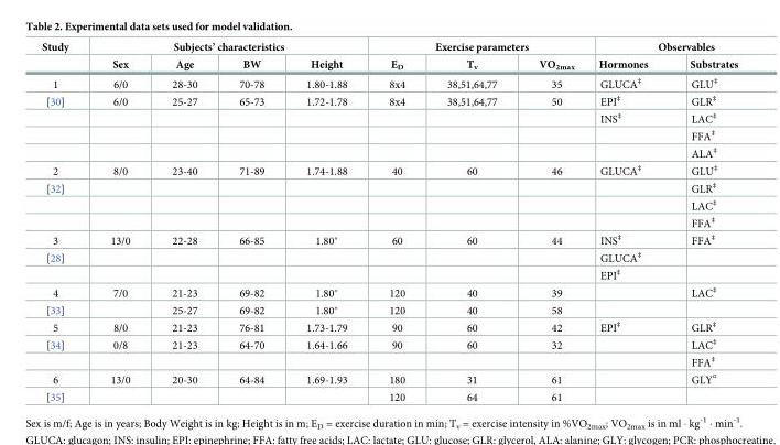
<table><thead><tr><td rowspan="2">Study</td><td colspan="4">Subjects’ characteristics</td><td colspan="3">Exercise parameters</td><td colspan="2">Observables</td></tr><tr><td>Sex</td><td>Age</td><td>BW</td><td>Height</td><td>E<sub>D</sub></td><td>T<sub>v</sub></td><td>VO<sub>2max</sub></td><td>Hormones</td><td>Substrates</td></tr></thead><tbody><tr><td>1</td><td>6/0</td><td>28-30</td><td>70-78</td><td>1.80-1.88</td><td>8x4</td><td>38,51,64,77</td><td>35</td><td>GLUCA<sup>‡</sup></td><td>GLU<sup>‡</sup></td></tr><tr><td rowspan="4">[30]</td><td>6/0</td><td>25-27</td><td>65-73</td><td>1.72-1.78</td><td>8x4</td><td>38,51,64,77</td><td>50</td><td>EPI<sup>‡</sup></td><td>GLR<sup>‡</sup></td></tr><tr><td></td><td></td><td></td><td></td><td></td><td></td><td></td><td>INS<sup>‡</sup></td><td>LAC<sup>‡</sup></td></tr><tr><td></td><td></td><td></td><td></td><td></td><td></td><td></td><td></td><td>FFA<sup>‡</sup></td></tr><tr><td></td><td></td><td></td><td></td><td></td><td></td><td></td><td></td><td>ALA<sup>‡</sup></td></tr><tr><td>2</td><td>8/0</td><td>23-40</td><td>71-89</td><td>1.74-1.88</td><td>40</td><td>60</td><td>46</td><td>GLUCA<sup>‡</sup></td><td>GLU<sup>‡</sup></td></tr><tr><td rowspan="3">[32]</td><td></td><td></td><td></td><td></td><td></td><td></td><td></td><td></td><td>GLR<sup>‡</sup></td></tr><tr><td></td><td></td><td></td><td></td><td></td><td></td><td></td><td></td><td>LAC<sup>‡</sup></td></tr><tr><td></td><td></td><td></td><td></td><td></td><td></td><td></td><td></td><td>FFA<sup>‡</sup></td></tr><tr><td>3</td><td>13/0</td><td>22-28</td><td>66-85</td><td>1.80*</td><td>60</td><td>60</td><td>44</td><td>INS<sup>‡</sup></td><td>FFA<sup>‡</sup></td></tr><tr><td rowspan="2">[28]</td><td></td><td></td><td></td><td></td><td></td><td></td><td></td><td>GLUCA<sup>‡</sup></td><td></td></tr><tr><td></td><td></td><td></td><td></td><td></td><td></td><td></td><td>EPI<sup>‡</sup></td><td></td></tr><tr><td>4</td><td>7/0</td><td>21-23</td><td>69-82</td><td>1.80*</td><td>120</td><td>40</td><td>39</td><td></td><td>LAC<sup>‡</sup></td></tr><tr><td>[33]</td><td></td><td>25-27</td><td>69-82</td><td>1.80*</td><td>120</td><td>40</td><td>58</td><td></td><td></td></tr><tr><td>5</td><td>8/0</td><td>21-23</td><td>76-81</td><td>1.73-1.79</td><td>90</td><td>60</td><td>42</td><td>EPI<sup>‡</sup></td><td>GLR<sup>‡</sup></td></tr><tr><td rowspan="2">[34]</td><td>0/8</td><td>21-23</td><td>64-70</td><td>1.64-1.66</td><td>90</td><td>60</td><td>32</td><td></td><td>LAC<sup>‡</sup></td></tr><tr><td></td><td></td><td></td><td></td><td></td><td></td><td></td><td></td><td>FFA<sup>‡</sup></td></tr><tr><td>6</td><td>13/0</td><td>20-30</td><td>64-84</td><td>1.69-1.93</td><td>180</td><td>31</td><td>61</td><td></td><td>GLY<sup>¤</sup></td></tr><tr><td>[35]</td><td></td><td></td><td></td><td></td><td>120</td><td>64</td><td>61</td><td></td><td></td></tr></tbody></table>